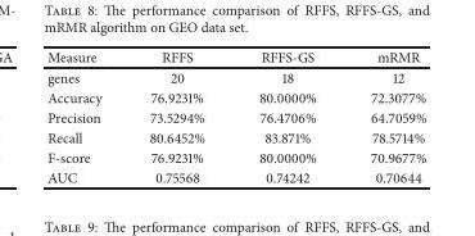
<table><thead><tr><td>Measure</td><td>RFFS</td><td>RFFS-GS</td><td>mRMR</td></tr></thead><tbody><tr><td>genes</td><td>20</td><td>18</td><td>12</td></tr><tr><td>Accuracy</td><td>76.9231%</td><td>80.0000%</td><td>72.3077%</td></tr><tr><td>Precision</td><td>73.5294%</td><td>76.4706%</td><td>64.7059%</td></tr><tr><td>Recall</td><td>80.6452%</td><td>83.871%</td><td>78.5714%</td></tr><tr><td>F-score</td><td>76.9231%</td><td>80.0000%</td><td>70.9677%</td></tr><tr><td>AUC</td><td>0.75568</td><td>0.74242</td><td>0.70644</td></tr></tbody></table>